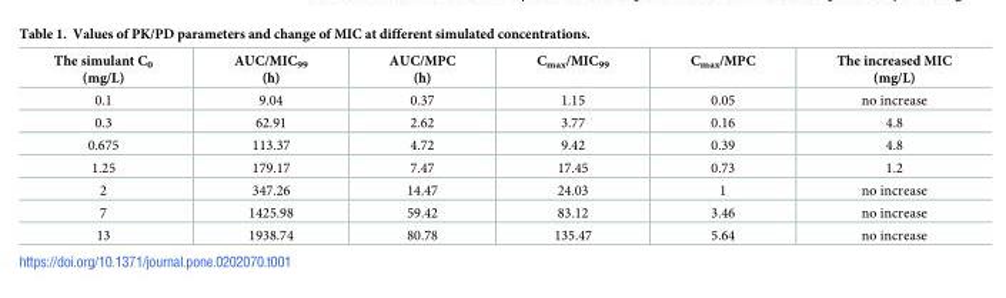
<table><thead><tr><td>The simulant C<sub>0</sub> (mg/L)</td><td>AUC/MIC<sub>99</sub> (h)</td><td>AUC/MPC (h)</td><td>C<sub>max</sub>/MIC<sub>99</sub></td><td>C<sub>max</sub>/MPC</td><td>The increased MIC (mg/L)</td></tr></thead><tbody><tr><td>0.1</td><td>9.04</td><td>0.37</td><td>1.15</td><td>0.05</td><td>no increase</td></tr><tr><td>0.3</td><td>62.91</td><td>2.62</td><td>3.77</td><td>0.16</td><td>4.8</td></tr><tr><td>0.675</td><td>113.37</td><td>4.72</td><td>9.42</td><td>0.39</td><td>4.8</td></tr><tr><td>1.25</td><td>179.17</td><td>7.47</td><td>17.45</td><td>0.73</td><td>1.2</td></tr><tr><td>2</td><td>347.26</td><td>14.47</td><td>24.03</td><td>1</td><td>no increase</td></tr><tr><td>7</td><td>1425.98</td><td>59.42</td><td>83.12</td><td>3.46</td><td>no increase</td></tr><tr><td>13</td><td>1938.74</td><td>80.78</td><td>135.47</td><td>5.64</td><td>no increase</td></tr></tbody></table>